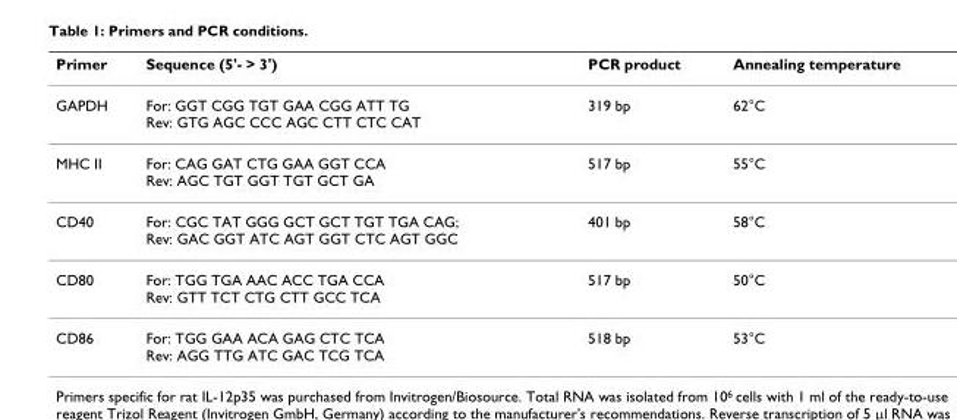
<table><thead><tr><td>Primer</td><td>Sequence (5&#x27;- &gt; 3&#x27;)</td><td>PCR product</td><td>Annealing temperature</td></tr></thead><tbody><tr><td>GAPDH</td><td>For: GGT CGG TGT GAA CGG ATT TG Rev: GTG AGC CCC AGC CTT CTC CAT</td><td>319 bp</td><td>62°C</td></tr><tr><td>MHC II</td><td>For: CAG GAT CTG GAA GGT CCA Rev: AGC TGT GGT TGT GCT GA</td><td>517 bp</td><td>55°C</td></tr><tr><td>CD40</td><td>For: CGC TAT GGG GCT GCT TGT TGA CAG; Rev: GAC GGT ATC AGT GGT CTC AGT GGC</td><td>401 bp</td><td>58°C</td></tr><tr><td>CD80</td><td>For: TGG TGA AAC ACC TGA CCA Rev: GTT TCT CTG CTT GCC TCA</td><td>517 bp</td><td>50°C</td></tr><tr><td>CD86</td><td>For: TGG GAA ACA GAG CTC TCA Rev: AGG TTG ATC GAC TCG TCA</td><td>518 bp</td><td>53°C</td></tr></tbody></table>